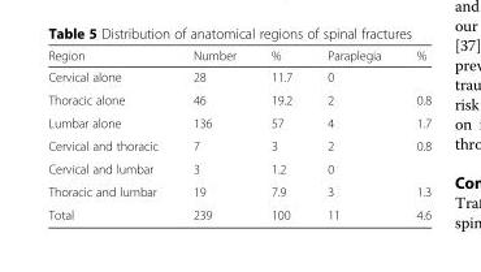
<table><thead><tr><td>Region</td><td>Number</td><td>%</td><td>Paraplegia</td><td>%</td></tr></thead><tbody><tr><td>Cervical alone</td><td>28</td><td>11.7</td><td>0</td><td></td></tr><tr><td>Thoracic alone</td><td>46</td><td>19.2</td><td>2</td><td>0.8</td></tr><tr><td>Lumbar alone</td><td>136</td><td>57</td><td>4</td><td>1.7</td></tr><tr><td>Cervical and thoracic</td><td>7</td><td>3</td><td>2</td><td>0.8</td></tr><tr><td>Cervical and lumbar</td><td>3</td><td>1.2</td><td>0</td><td></td></tr><tr><td>Thoracic and lumbar</td><td>19</td><td>7.9</td><td>3</td><td>1.3</td></tr><tr><td>Total</td><td>239</td><td>100</td><td>11</td><td>4.6</td></tr></tbody></table>